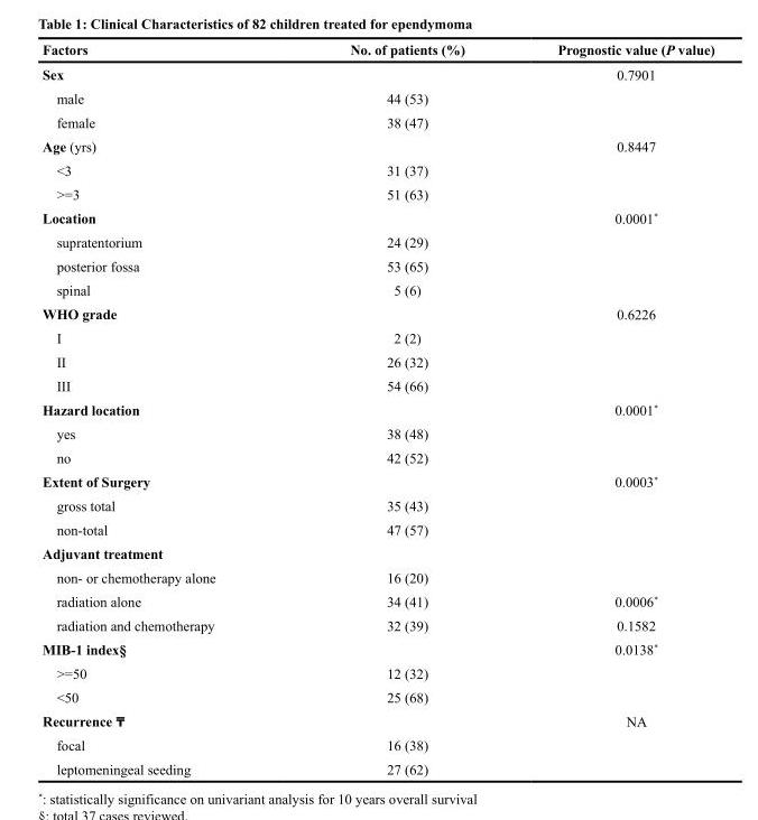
<table><thead><tr><td>Factors</td><td>No. of patients (%)</td><td>Prognostic value (P value)</td></tr></thead><tbody><tr><td>Sex</td><td></td><td>0.7901</td></tr><tr><td>male</td><td>44 (53)</td><td></td></tr><tr><td>female</td><td>38 (47)</td><td></td></tr><tr><td>Age (yrs)</td><td></td><td>0.8447</td></tr><tr><td>&lt;3</td><td>31 (37)</td><td></td></tr><tr><td>&gt;=3</td><td>51 (63)</td><td></td></tr><tr><td>Location</td><td></td><td>0.0001*</td></tr><tr><td>supratentorium</td><td>24 (29)</td><td></td></tr><tr><td>posterior fossa</td><td>53 (65)</td><td></td></tr><tr><td>spinal</td><td>5 (6)</td><td></td></tr><tr><td>WHO grade</td><td></td><td>0.6226</td></tr><tr><td>I</td><td>2 (2)</td><td></td></tr><tr><td>II</td><td>26 (32)</td><td></td></tr><tr><td>III</td><td>54 (66)</td><td></td></tr><tr><td>Hazard location</td><td></td><td>0.0001*</td></tr><tr><td>yes</td><td>38 (48)</td><td></td></tr><tr><td>no</td><td>42 (52)</td><td></td></tr><tr><td>Extent of Surgery</td><td></td><td>0.0003*</td></tr><tr><td>gross total</td><td>35 (43)</td><td></td></tr><tr><td>non-total</td><td>47 (57)</td><td></td></tr><tr><td colspan="3">Adjuvant treatment</td></tr><tr><td>non- or chemotherapy alone</td><td>16 (20)</td><td></td></tr><tr><td>radiation alone</td><td>34 (41)</td><td>0.0006*</td></tr><tr><td>radiation and chemotherapy</td><td>32 (39)</td><td>0.1582</td></tr><tr><td>MIB-1 index§</td><td></td><td>0.0138*</td></tr><tr><td>&gt;=50</td><td>12 (32)</td><td></td></tr><tr><td>&lt;50</td><td>25 (68)</td><td></td></tr><tr><td>Recurrence ₸</td><td></td><td>NA</td></tr><tr><td>focal</td><td>16 (38)</td><td></td></tr><tr><td>leptomeningeal seeding</td><td>27 (62)</td><td></td></tr></tbody></table>